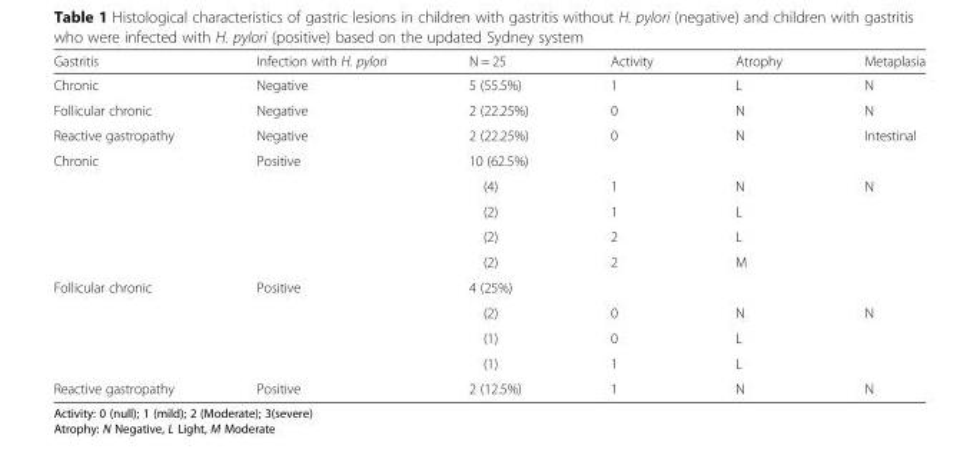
<table><thead><tr><td>Gastritis</td><td>Infection with H. pylori</td><td>N = 25</td><td>Activity</td><td>Atrophy</td><td>Metaplasia</td></tr></thead><tbody><tr><td>Chronic</td><td>Negative</td><td>5 (55.5%)</td><td>1</td><td>L</td><td>N</td></tr><tr><td>Follicular chronic</td><td>Negative</td><td>2 (22.25%)</td><td>0</td><td>N</td><td>N</td></tr><tr><td>Reactive gastropathy</td><td>Negative</td><td>2 (22.25%)</td><td>0</td><td>N</td><td>Intestinal</td></tr><tr><td rowspan="5">Chronic</td><td rowspan="5">Positive</td><td colspan="4">10 (62.5%)</td></tr><tr><td>(4)</td><td>1</td><td>N</td><td rowspan="4">N</td></tr><tr><td>(2)</td><td>1</td><td>L</td></tr><tr><td>(2)</td><td>2</td><td>L</td></tr><tr><td>(2)</td><td>2</td><td>M</td></tr><tr><td rowspan="4">Follicular chronic</td><td rowspan="4">Positive</td><td colspan="4">4 (25%)</td></tr><tr><td>(2)</td><td>0</td><td>N</td><td rowspan="3">N</td></tr><tr><td>(1)</td><td>0</td><td>L</td></tr><tr><td>(1)</td><td>1</td><td>L</td></tr><tr><td>Reactive gastropathy</td><td>Positive</td><td>2 (12.5%)</td><td>1</td><td>N</td><td>N</td></tr></tbody></table>